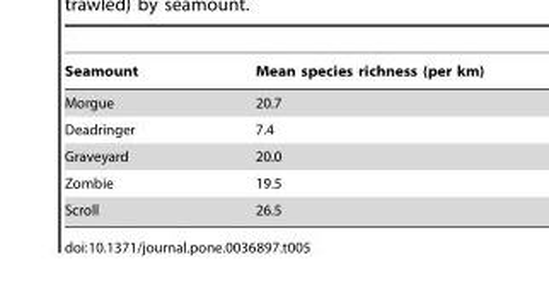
<table><thead><tr><td>Seamount</td><td>Mean species richness (per km)</td></tr></thead><tbody><tr><td>Morgue</td><td>20.7</td></tr><tr><td>Deadringer</td><td>7.4</td></tr><tr><td>Graveyard</td><td>20.0</td></tr><tr><td>Zombie</td><td>19.5</td></tr><tr><td>Scroll</td><td>26.5</td></tr></tbody></table>